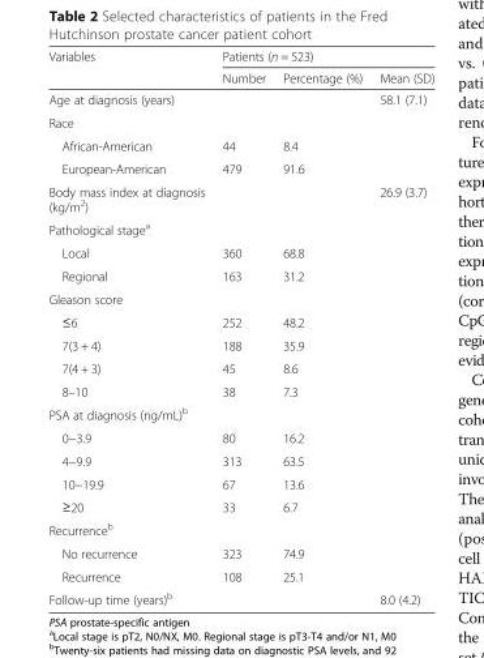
<table><thead><tr><td rowspan="2">Variables</td><td colspan="3">Patients (n = 523)</td></tr><tr><td>Number</td><td>Percentage (%)</td><td>Mean (SD)</td></tr></thead><tbody><tr><td>Age at diagnosis (years)</td><td></td><td></td><td>58.1 (7.1)</td></tr><tr><td colspan="4">Race</td></tr><tr><td>African-American</td><td>44</td><td>8.4</td><td></td></tr><tr><td>European-American</td><td>479</td><td>91.6</td><td></td></tr><tr><td>Body mass index at diagnosis (kg/m<sup>2</sup>)</td><td></td><td></td><td>26.9 (3.7)</td></tr><tr><td colspan="4">Pathological stage<sup>a</sup></td></tr><tr><td>Local</td><td>360</td><td>68.8</td><td></td></tr><tr><td>Regional</td><td>163</td><td>31.2</td><td></td></tr><tr><td colspan="4">Gleason score</td></tr><tr><td>≤6</td><td>252</td><td>48.2</td><td></td></tr><tr><td>7(3 + 4)</td><td>188</td><td>35.9</td><td></td></tr><tr><td>7(4 + 3)</td><td>45</td><td>8.6</td><td></td></tr><tr><td>8–10</td><td>38</td><td>7.3</td><td></td></tr><tr><td colspan="4">PSA at diagnosis (ng/mL)<sup>b</sup></td></tr><tr><td>0−3.9</td><td>80</td><td>16.2</td><td></td></tr><tr><td>4−9.9</td><td>313</td><td>63.5</td><td></td></tr><tr><td>10−19.9</td><td>67</td><td>13.6</td><td></td></tr><tr><td>≥20</td><td>33</td><td>6.7</td><td></td></tr><tr><td colspan="4">Recurrence<sup>b</sup></td></tr><tr><td>No recurrence</td><td>323</td><td>74.9</td><td></td></tr><tr><td>Recurrence</td><td>108</td><td>25.1</td><td></td></tr><tr><td>Follow-up time (years)<sup>b</sup></td><td></td><td></td><td>8.0 (4.2)</td></tr></tbody></table>